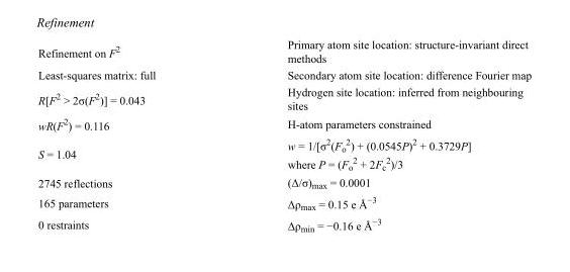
<table><tbody><tr><td>Refinement on F<sup>2</sup></td><td>Primary atom site location: structure-invariant direct methods</td></tr><tr><td>Least-squares matrix: full</td><td>Secondary atom site location: difference Fourier map</td></tr><tr><td>R[F<sup>2</sup> &gt; 2σ(F<sup>2</sup>)] = 0.043</td><td>Hydrogen site location: inferred from neighbouring sites</td></tr><tr><td>wR(F<sup>2</sup>) = 0.116</td><td>H-atom parameters constrained</td></tr><tr><td>S = 1.04</td><td>w = 1/[σ<sup>2</sup>(F<sub>o</sub> <sup>2</sup>) + (0.0545P)<sup>2</sup> + 0.3729P] where P = (F<sub>o</sub> <sup>2</sup> + 2F<sub>c</sub> <sup>2</sup>)/3</td></tr><tr><td>2745 reflections</td><td>(Δ/σ)<sub>max</sub> = 0.0001</td></tr><tr><td>165 parameters</td><td>Δρ<sub>max</sub> = 0.15 e Å<sup>−3</sup></td></tr><tr><td>0 restraints</td><td>Δρ<sub>min</sub> = −0.16 e Å<sup>−3</sup></td></tr></tbody></table>